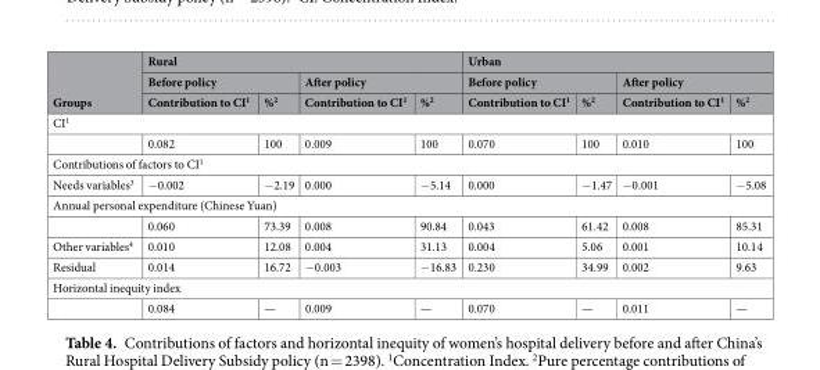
<table><thead><tr><td rowspan="3">Groups</td><td colspan="4">Rural</td><td colspan="4">Urban</td></tr><tr><td colspan="2">Before policy</td><td colspan="2">After policy</td><td colspan="2">Before policy</td><td colspan="2">After policy</td></tr><tr><td>Contribution to CI<sup>1</sup></td><td>%<sup>2</sup></td><td>Contribution to CI<sup>1</sup></td><td>%<sup>2</sup></td><td>Contribution to CI<sup>1</sup></td><td>%<sup>2</sup></td><td>Contribution to CI<sup>1</sup></td><td>%<sup>2</sup></td></tr></thead><tbody><tr><td colspan="9">CI<sup>1</sup></td></tr><tr><td></td><td>0.082</td><td>100</td><td>0.009</td><td>100</td><td>0.070</td><td>100</td><td>0.010</td><td>100</td></tr><tr><td colspan="9">Contributions of factors to CI<sup>1</sup></td></tr><tr><td>Needs variables<sup>3</sup></td><td>−0.002</td><td>−2.19</td><td>0.000</td><td>−5.14</td><td>0.000</td><td>−1.47</td><td>−0.001</td><td>−5.08</td></tr><tr><td colspan="9">Annual personal expenditure (Chinese Yuan)</td></tr><tr><td></td><td>0.060</td><td>73.39</td><td>0.008</td><td>90.84</td><td>0.043</td><td>61.42</td><td>0.008</td><td>85.31</td></tr><tr><td>Other variables<sup>4</sup></td><td>0.010</td><td>12.08</td><td>0.004</td><td>31.13</td><td>0.004</td><td>5.06</td><td>0.001</td><td>10.14</td></tr><tr><td>Residual</td><td>0.014</td><td>16.72</td><td>−0.003</td><td>−16.83</td><td>0.230</td><td>34.99</td><td>0.002</td><td>9.63</td></tr><tr><td colspan="9">Horizontal inequity index</td></tr><tr><td></td><td>0.084</td><td>—</td><td>0.009</td><td>—</td><td>0.070</td><td>—</td><td>0.011</td><td>—</td></tr></tbody></table>